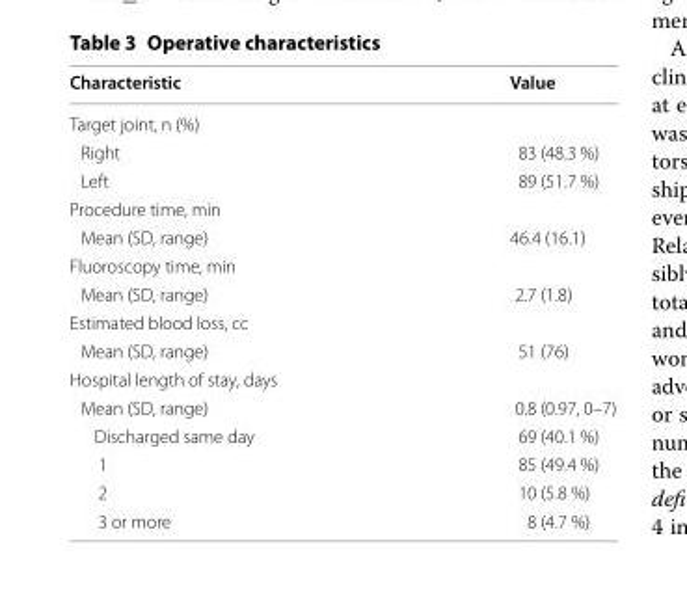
<table><thead><tr><td>Characteristic</td><td>Value</td></tr></thead><tbody><tr><td colspan="2">Target joint, n (%)</td></tr><tr><td>Right</td><td>83 (48.3 %)</td></tr><tr><td>Left</td><td>89 (51.7 %)</td></tr><tr><td colspan="2">Procedure time, min</td></tr><tr><td>Mean (SD, range)</td><td>46.4 (16.1)</td></tr><tr><td colspan="2">Fluoroscopy time, min</td></tr><tr><td>Mean (SD, range)</td><td>2.7 (1.8)</td></tr><tr><td colspan="2">Estimated blood loss, cc</td></tr><tr><td>Mean (SD, range)</td><td>51 (76)</td></tr><tr><td colspan="2">Hospital length of stay, days</td></tr><tr><td>Mean (SD, range)</td><td>0.8 (0.97, 0–7)</td></tr><tr><td>Discharged same day</td><td>69 (40.1 %)</td></tr><tr><td>1</td><td>85 (49.4 %)</td></tr><tr><td>2</td><td>10 (5.8 %)</td></tr><tr><td>3 or more</td><td>8 (4.7 %)</td></tr></tbody></table>